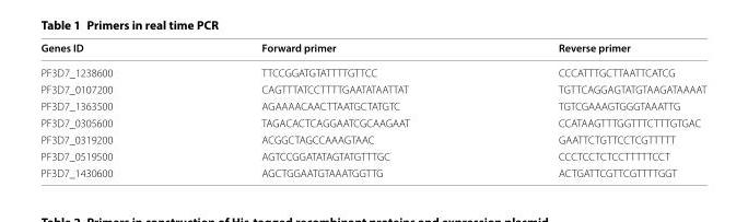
<table><thead><tr><td>Genes ID</td><td>Forward primer</td><td>Reverse primer</td></tr></thead><tbody><tr><td>PF3D7_1238600</td><td>TTC CGG ATG TAT TTT GTT CC</td><td>CCC ATT TGC TTA ATT CAT CG</td></tr><tr><td>PF3D7_0107200</td><td>CAG TTT ATC CTT TTG AAT ATA ATT AT</td><td>TGT TCA GGA GTA TGT AAG ATA AAA T</td></tr><tr><td>PF3D7_1363500</td><td>AGA AAA CAA CTT AAT GCT ATGTC</td><td>TGT CGA AAG TGG GTA AAT TG</td></tr><tr><td>PF3D7_0305600</td><td>TAG ACA CTC AGG AAT CGC AAG AAT</td><td>CCA TAA GTT TGG TTT CTT TGT GAC</td></tr><tr><td>PF3D7_0319200</td><td>ACG GCT AGC CAA AGT AAC</td><td>GAA TTC TGT TCC TCG TTT TT</td></tr><tr><td>PF3D7_0519500</td><td>AGT CCG GAT ATA GTA TGT TTGC</td><td>CCC TCC TCT CCT TTT TCC T</td></tr><tr><td>PF3D7_1430600</td><td>AGC TGG AAT GTA AAT GGT TG</td><td>ACT GAT TCG TTC GTT TTG GT</td></tr></tbody></table>